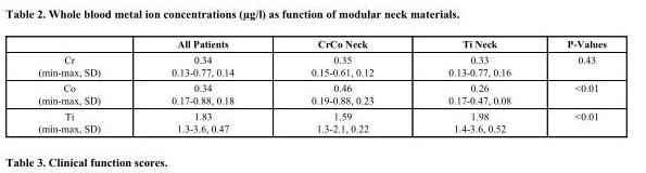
<table><thead><tr><td></td><td>All Patients</td><td>CrCo Neck</td><td>Ti Neck</td><td>P-Values</td></tr></thead><tbody><tr><td>Cr (min-max, SD)</td><td>0.34 0.13-0.77, 0.14</td><td>0.35 0.15-0.61, 0.12</td><td>0.33 0.13-0.77, 0.16</td><td>0.43</td></tr><tr><td>Co (min-max, SD)</td><td>0.34 0.17-0.88, 0.18</td><td>0.46 0.19-0.88, 0.23</td><td>0.26 0.17-0.47, 0.08</td><td>&lt;0.01</td></tr><tr><td>Ti (min-max, SD)</td><td>1.83 1.3-3.6, 0.47</td><td>1.59 1.3-2.1, 0.22</td><td>1.98 1.4-3.6, 0.52</td><td>&lt;0.01</td></tr></tbody></table>